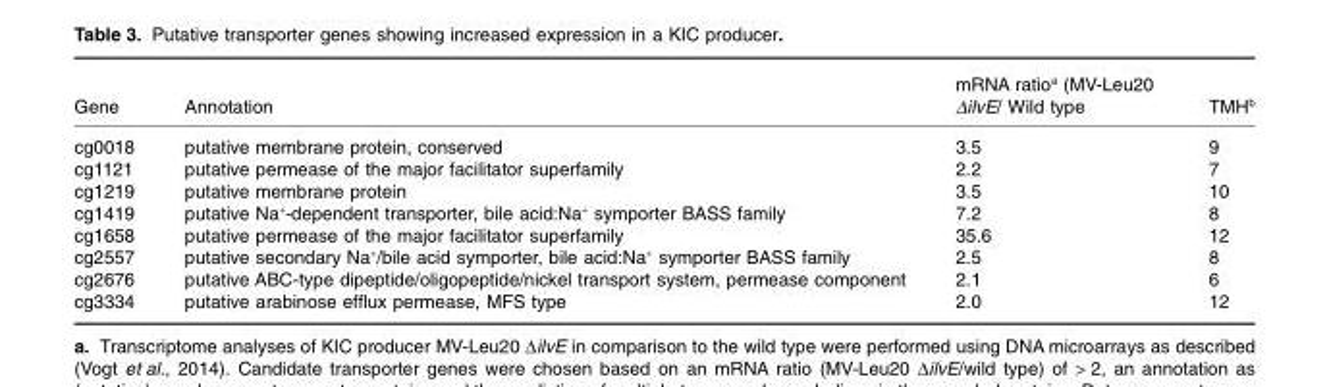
<table><thead><tr><td>Gene</td><td>Annotation</td><td>mRNA ratio<sup>a</sup> (MV-Leu20 ΔilvE/ Wild type</td><td>TMH<sup>b</sup></td></tr></thead><tbody><tr><td>cg0018</td><td>putative membrane protein, conserved</td><td>3.5</td><td>9</td></tr><tr><td>cg1121</td><td>putative permease of the major facilitator superfamily</td><td>2.2</td><td>7</td></tr><tr><td>cg1219</td><td>putative membrane protein</td><td>3.5</td><td>10</td></tr><tr><td>cg1419</td><td>putative Na<sup>+</sup>-dependent transporter, bile acid:Na<sup>+</sup> symporter BASS family</td><td>7.2</td><td>8</td></tr><tr><td>cg1658</td><td>putative permease of the major facilitator superfamily</td><td>35.6</td><td>12</td></tr><tr><td>cg2557</td><td>putative secondary Na<sup>+</sup>/bile acid symporter, bile acid:Na<sup>+</sup> symporter BASS family</td><td>2.5</td><td>8</td></tr><tr><td>cg2676</td><td>putative ABC-type dipeptide/oligopeptide/nickel transport system, permease component</td><td>2.1</td><td>6</td></tr><tr><td>cg3334</td><td>putative arabinose efflux permease, MFS type</td><td>2.0</td><td>12</td></tr></tbody></table>